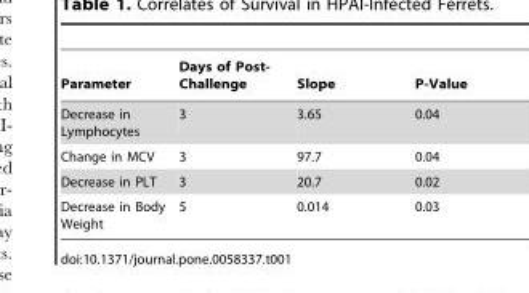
<table><thead><tr><td>Parameter</td><td>Days of Post- Challenge</td><td>Slope</td><td>P-Value</td></tr></thead><tbody><tr><td>Decrease in Lymphocytes</td><td>3</td><td>3.65</td><td>0.04</td></tr><tr><td>Change in MCV</td><td>3</td><td>97.7</td><td>0.04</td></tr><tr><td>Decrease in PLT</td><td>3</td><td>20.7</td><td>0.02</td></tr><tr><td>Decrease in Body Weight</td><td>5</td><td>0.014</td><td>0.03</td></tr></tbody></table>